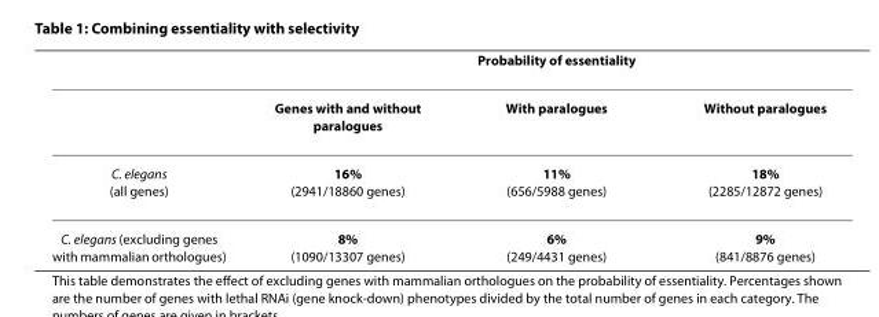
<table><thead><tr><td rowspan="2"></td><td colspan="3">Probability of essentiality</td></tr><tr><td>Genes with and without paralogues</td><td>With paralogues</td><td>Without paralogues</td></tr></thead><tbody><tr><td>C. elegans (all genes)</td><td>16% (2941/18860 genes)</td><td>11% (656/5988 genes)</td><td>18% (2285/12872 genes)</td></tr><tr><td>C. elegans (excluding genes with mammalian orthologues)</td><td>8% (1090/13307 genes)</td><td>6% (249/4431 genes)</td><td>9% (841/8876 genes)</td></tr></tbody></table>